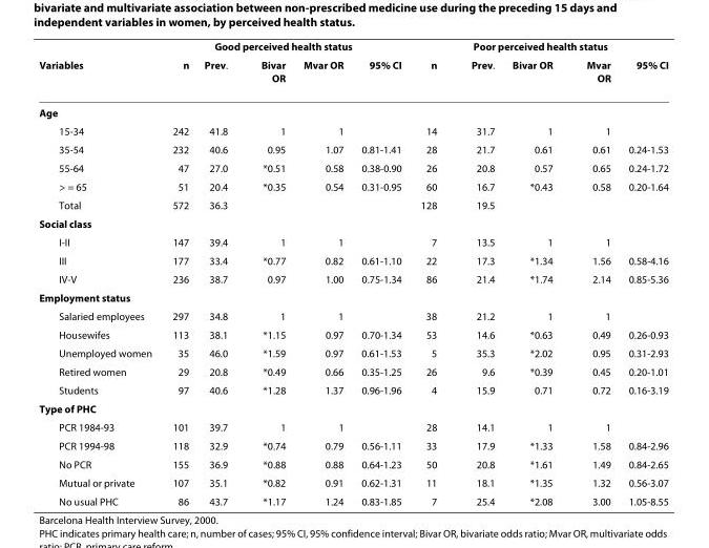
<table><thead><tr><td rowspan="2">Variables</td><td colspan="5">Good perceived health status</td><td colspan="5">Poor perceived health status</td></tr><tr><td>n</td><td>Prev.</td><td>Bivar OR</td><td>Mvar OR</td><td>95% CI</td><td>n</td><td>Prev.</td><td>Bivar OR</td><td>Mvar OR</td><td>95% CI</td></tr></thead><tbody><tr><td colspan="11">Age</td></tr><tr><td>15-34</td><td>242</td><td>41.8</td><td>1</td><td>1</td><td></td><td>14</td><td>31.7</td><td>1</td><td>1</td><td></td></tr><tr><td>35-54</td><td>232</td><td>40.6</td><td>0.95</td><td>1.07</td><td>0.81-1.41</td><td>28</td><td>21.7</td><td>0.61</td><td>0.61</td><td>0.24-1.53</td></tr><tr><td>55-64</td><td>47</td><td>27.0</td><td>*0.51</td><td>0.58</td><td>0.38-0.90</td><td>26</td><td>20.8</td><td>0.57</td><td>0.65</td><td>0.24-1.72</td></tr><tr><td>&gt; = 65</td><td>51</td><td>20.4</td><td>*0.35</td><td>0.54</td><td>0.31-0.95</td><td>60</td><td>16.7</td><td>*0.43</td><td>0.58</td><td>0.20-1.64</td></tr><tr><td>Total</td><td>572</td><td>36.3</td><td></td><td></td><td></td><td>128</td><td>19.5</td><td></td><td></td><td></td></tr><tr><td colspan="11">Social class</td></tr><tr><td>I-II</td><td>147</td><td>39.4</td><td>1</td><td>1</td><td></td><td>7</td><td>13.5</td><td>1</td><td>1</td><td></td></tr><tr><td>III</td><td>177</td><td>33.4</td><td>*0.77</td><td>0.82</td><td>0.61-1.10</td><td>22</td><td>17.3</td><td>*1.34</td><td>1.56</td><td>0.58-4.16</td></tr><tr><td>IV-V</td><td>236</td><td>38.7</td><td>0.97</td><td>1.00</td><td>0.75-1.34</td><td>86</td><td>21.4</td><td>*1.74</td><td>2.14</td><td>0.85-5.36</td></tr><tr><td colspan="11">Employment status</td></tr><tr><td>Salaried employees</td><td>297</td><td>34.8</td><td>1</td><td>1</td><td></td><td>38</td><td>21.2</td><td>1</td><td>1</td><td></td></tr><tr><td>Housewifes</td><td>113</td><td>38.1</td><td>*1.15</td><td>0.97</td><td>0.70-1.34</td><td>53</td><td>14.6</td><td>*0.63</td><td>0.49</td><td>0.26-0.93</td></tr><tr><td>Unemployed women</td><td>35</td><td>46.0</td><td>*1.59</td><td>0.97</td><td>0.61-1.53</td><td>5</td><td>35.3</td><td>*2.02</td><td>0.95</td><td>0.31-2.93</td></tr><tr><td>Retired women</td><td>29</td><td>20.8</td><td>*0.49</td><td>0.66</td><td>0.35-1.25</td><td>26</td><td>9.6</td><td>*0.39</td><td>0.45</td><td>0.20-1.01</td></tr><tr><td>Students</td><td>97</td><td>40.6</td><td>*1.28</td><td>1.37</td><td>0.96-1.96</td><td>4</td><td>15.9</td><td>0.71</td><td>0.72</td><td>0.16-3.19</td></tr><tr><td colspan="11">Type of PHC</td></tr><tr><td>PCR 1984-93</td><td>101</td><td>39.7</td><td>1</td><td>1</td><td></td><td>28</td><td>14.1</td><td>1</td><td>1</td><td></td></tr><tr><td>PCR 1994-98</td><td>118</td><td>32.9</td><td>*0.74</td><td>0.79</td><td>0.56-1.11</td><td>33</td><td>17.9</td><td>*1.33</td><td>1.58</td><td>0.84-2.96</td></tr><tr><td>No PCR</td><td>155</td><td>36.9</td><td>*0.88</td><td>0.88</td><td>0.64-1.23</td><td>50</td><td>20.8</td><td>*1.61</td><td>1.49</td><td>0.84-2.65</td></tr><tr><td>Mutual or private</td><td>107</td><td>35.1</td><td>*0.82</td><td>0.91</td><td>0.62-1.31</td><td>11</td><td>18.1</td><td>*1.35</td><td>1.32</td><td>0.56-3.07</td></tr><tr><td>No usual PHC</td><td>86</td><td>43.7</td><td>*1.17</td><td>1.24</td><td>0.83-1.85</td><td>7</td><td>25.4</td><td>*2.08</td><td>3.00</td><td>1.05-8.55</td></tr></tbody></table>